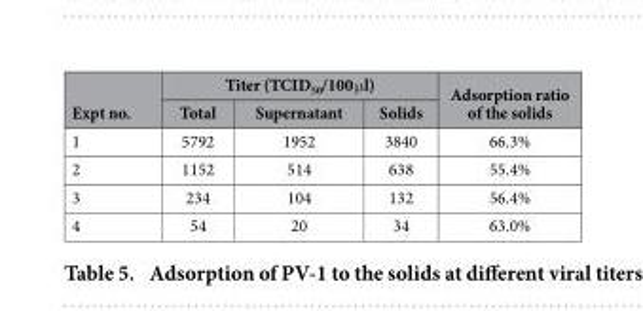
<table><thead><tr><td rowspan="2">Expt no.</td><td colspan="3">Titer (TCID<sub>50</sub>/100 μ l)</td><td rowspan="2">Adsorption ratio of the solids</td></tr><tr><td>Total</td><td>Supernatant</td><td>Solids</td></tr></thead><tbody><tr><td>1</td><td>5792</td><td>1952</td><td>3840</td><td>66.3%</td></tr><tr><td>2</td><td>1152</td><td>514</td><td>638</td><td>55.4%</td></tr><tr><td>3</td><td>234</td><td>104</td><td>132</td><td>56.4%</td></tr><tr><td>4</td><td>54</td><td>20</td><td>34</td><td>63.0%</td></tr></tbody></table>